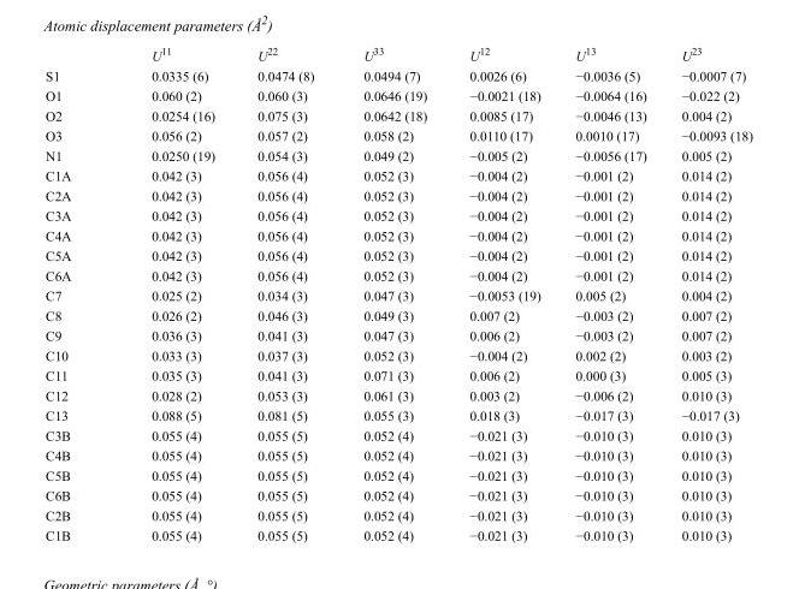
<table><thead><tr><td></td><td>U<sup>11</sup></td><td>U<sup>22</sup></td><td>U<sup>33</sup></td><td>U<sup>12</sup></td><td>U<sup>13</sup></td><td>U<sup>23</sup></td></tr></thead><tbody><tr><td>S1</td><td>0.0335 (6)</td><td>0.0474 (8)</td><td>0.0494 (7)</td><td>0.0026 (6)</td><td>−0.0036 (5)</td><td>−0.0007 (7)</td></tr><tr><td>O1</td><td>0.060 (2)</td><td>0.060 (3)</td><td>0.0646 (19)</td><td>−0.0021 (18)</td><td>−0.0064 (16)</td><td>−0.022 (2)</td></tr><tr><td>O2</td><td>0.0254 (16)</td><td>0.075 (3)</td><td>0.0642 (18)</td><td>0.0085 (17)</td><td>−0.0046 (13)</td><td>0.004 (2)</td></tr><tr><td>O3</td><td>0.056 (2)</td><td>0.057 (2)</td><td>0.058 (2)</td><td>0.0110 (17)</td><td>0.0010 (17)</td><td>−0.0093 (18)</td></tr><tr><td>N1</td><td>0.0250 (19)</td><td>0.054 (3)</td><td>0.049 (2)</td><td>−0.005 (2)</td><td>−0.0056 (17)</td><td>0.005 (2)</td></tr><tr><td>C1A</td><td>0.042 (3)</td><td>0.056 (4)</td><td>0.052 (3)</td><td>−0.004 (2)</td><td>−0.001 (2)</td><td>0.014 (2)</td></tr><tr><td>C2A</td><td>0.042 (3)</td><td>0.056 (4)</td><td>0.052 (3)</td><td>−0.004 (2)</td><td>−0.001 (2)</td><td>0.014 (2)</td></tr><tr><td>C3A</td><td>0.042 (3)</td><td>0.056 (4)</td><td>0.052 (3)</td><td>−0.004 (2)</td><td>−0.001 (2)</td><td>0.014 (2)</td></tr><tr><td>C4A</td><td>0.042 (3)</td><td>0.056 (4)</td><td>0.052 (3)</td><td>−0.004 (2)</td><td>−0.001 (2)</td><td>0.014 (2)</td></tr><tr><td>C5A</td><td>0.042 (3)</td><td>0.056 (4)</td><td>0.052 (3)</td><td>−0.004 (2)</td><td>−0.001 (2)</td><td>0.014 (2)</td></tr><tr><td>C6A</td><td>0.042 (3)</td><td>0.056 (4)</td><td>0.052 (3)</td><td>−0.004 (2)</td><td>−0.001 (2)</td><td>0.014 (2)</td></tr><tr><td>C7</td><td>0.025 (2)</td><td>0.034 (3)</td><td>0.047 (3)</td><td>−0.0053 (19)</td><td>0.005 (2)</td><td>0.004 (2)</td></tr><tr><td>C8</td><td>0.026 (2)</td><td>0.046 (3)</td><td>0.049 (3)</td><td>0.007 (2)</td><td>−0.003 (2)</td><td>0.007 (2)</td></tr><tr><td>C9</td><td>0.036 (3)</td><td>0.041 (3)</td><td>0.047 (3)</td><td>0.006 (2)</td><td>−0.003 (2)</td><td>0.007 (2)</td></tr><tr><td>C10</td><td>0.033 (3)</td><td>0.037 (3)</td><td>0.052 (3)</td><td>−0.004 (2)</td><td>0.002 (2)</td><td>0.003 (2)</td></tr><tr><td>C11</td><td>0.035 (3)</td><td>0.041 (3)</td><td>0.071 (3)</td><td>0.006 (2)</td><td>0.000 (3)</td><td>0.005 (3)</td></tr><tr><td>C12</td><td>0.028 (2)</td><td>0.053 (3)</td><td>0.061 (3)</td><td>0.003 (2)</td><td>−0.006 (2)</td><td>0.010 (3)</td></tr><tr><td>C13</td><td>0.088 (5)</td><td>0.081 (5)</td><td>0.055 (3)</td><td>0.018 (3)</td><td>−0.017 (3)</td><td>−0.017 (3)</td></tr><tr><td>C3B</td><td>0.055 (4)</td><td>0.055 (5)</td><td>0.052 (4)</td><td>−0.021 (3)</td><td>−0.010 (3)</td><td>0.010 (3)</td></tr><tr><td>C4B</td><td>0.055 (4)</td><td>0.055 (5)</td><td>0.052 (4)</td><td>−0.021 (3)</td><td>−0.010 (3)</td><td>0.010 (3)</td></tr><tr><td>C5B</td><td>0.055 (4)</td><td>0.055 (5)</td><td>0.052 (4)</td><td>−0.021 (3)</td><td>−0.010 (3)</td><td>0.010 (3)</td></tr><tr><td>C6B</td><td>0.055 (4)</td><td>0.055 (5)</td><td>0.052 (4)</td><td>−0.021 (3)</td><td>−0.010 (3)</td><td>0.010 (3)</td></tr><tr><td>C2B</td><td>0.055 (4)</td><td>0.055 (5)</td><td>0.052 (4)</td><td>−0.021 (3)</td><td>−0.010 (3)</td><td>0.010 (3)</td></tr><tr><td>C1B</td><td>0.055 (4)</td><td>0.055 (5)</td><td>0.052 (4)</td><td>−0.021 (3)</td><td>−0.010 (3)</td><td>0.010 (3)</td></tr></tbody></table>